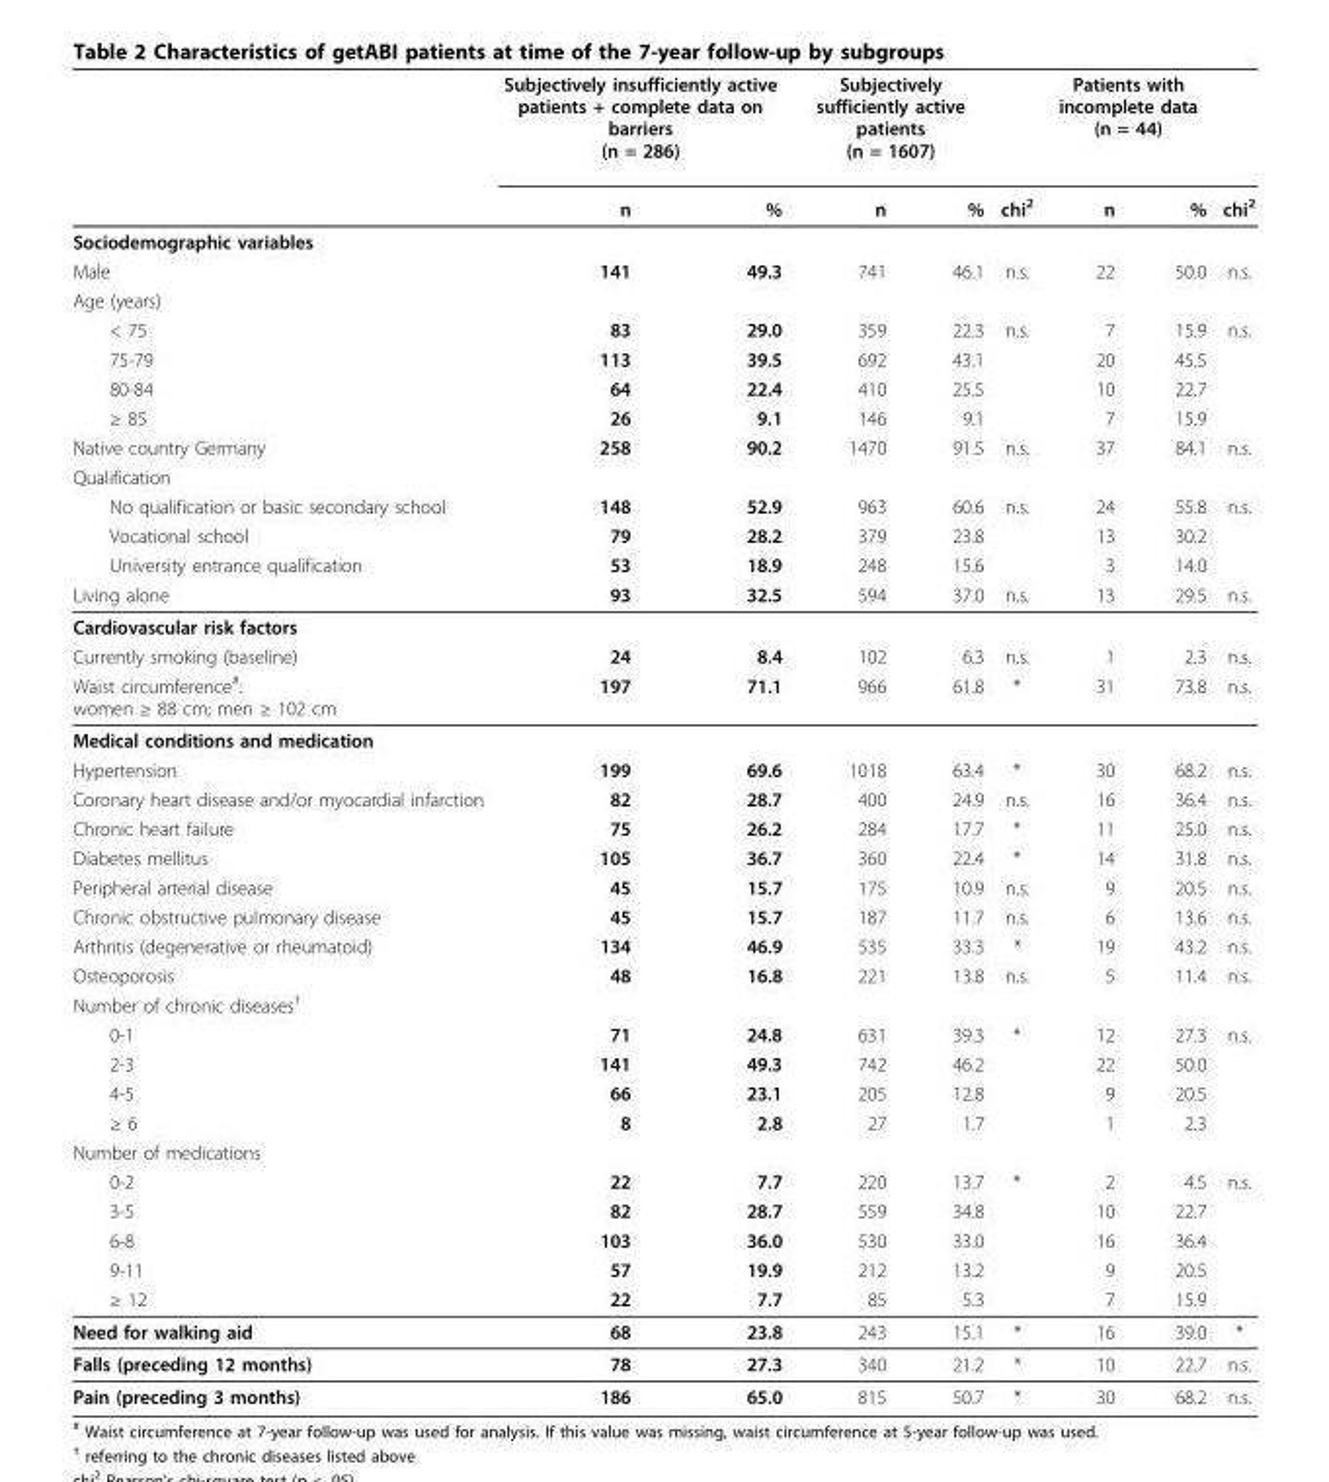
<table><thead><tr><td rowspan="2"></td><td colspan="2">Subjectively insufficiently active patients + complete data on barriers (n = 286)</td><td colspan="2">Subjectively sufficiently active patients (n = 1607)</td><td rowspan="2">chi<sup>2</sup></td><td colspan="2">Patients with incomplete data (n = 44)</td><td rowspan="2">chi<sup>2</sup></td></tr><tr><td>n</td><td>%</td><td>n</td><td>%</td><td>n</td><td>%</td></tr></thead><tbody><tr><td colspan="9">Sociodemographic variables</td></tr><tr><td>Male</td><td>141</td><td>49.3</td><td>741</td><td>46.1</td><td>n.s.</td><td>22</td><td>50.0</td><td>n.s.</td></tr><tr><td colspan="9">Age (years)</td></tr><tr><td>&lt; 75</td><td>83</td><td>29.0</td><td>359</td><td>22.3</td><td>n.s.</td><td>7</td><td>15.9</td><td>n.s.</td></tr><tr><td>75-79</td><td>113</td><td>39.5</td><td>692</td><td>43.1</td><td></td><td>20</td><td>45.5</td><td></td></tr><tr><td>80-84</td><td>64</td><td>22.4</td><td>410</td><td>25.5</td><td></td><td>10</td><td>22.7</td><td></td></tr><tr><td>≥ 85</td><td>26</td><td>9.1</td><td>146</td><td>9.1</td><td></td><td>7</td><td>15.9</td><td></td></tr><tr><td>Native country Germany</td><td>258</td><td>90.2</td><td>1470</td><td>91.5</td><td>n.s.</td><td>37</td><td>84.1</td><td>n.s.</td></tr><tr><td colspan="9">Qualification</td></tr><tr><td>No qualification or basic secondary school</td><td>148</td><td>52.9</td><td>963</td><td>60.6</td><td>n.s.</td><td>24</td><td>55.8</td><td>n.s.</td></tr><tr><td>Vocational school</td><td>79</td><td>28.2</td><td>379</td><td>23.8</td><td></td><td>13</td><td>30.2</td><td></td></tr><tr><td>University entrance qualification</td><td>53</td><td>18.9</td><td>248</td><td>15.6</td><td></td><td>3</td><td>14.0</td><td></td></tr><tr><td>Living alone</td><td>93</td><td>32.5</td><td>594</td><td>37.0</td><td>n.s.</td><td>13</td><td>29.5</td><td>n.s.</td></tr><tr><td colspan="9">Cardiovascular risk factors</td></tr><tr><td>Currently smoking (baseline)</td><td>24</td><td>8.4</td><td>102</td><td>6.3</td><td>n.s.</td><td>1</td><td>2.3</td><td>n.s.</td></tr><tr><td>Waist circumference<sup>#</sup>: women ≥ 88 cm; men ≥ 102 cm</td><td>197</td><td>71.1</td><td>966</td><td>61.8</td><td>*</td><td>31</td><td>73.8</td><td>n.s.</td></tr><tr><td colspan="9">Medical conditions and medication</td></tr><tr><td>Hypertension</td><td>199</td><td>69.6</td><td>1018</td><td>63.4</td><td>*</td><td>30</td><td>68.2</td><td>n.s.</td></tr><tr><td>Coronary heart disease and/or myocardial infarction</td><td>82</td><td>28.7</td><td>400</td><td>24.9</td><td>n.s.</td><td>16</td><td>36.4</td><td>n.s.</td></tr><tr><td>Chronic heart failure</td><td>75</td><td>26.2</td><td>284</td><td>17.7</td><td>*</td><td>11</td><td>25.0</td><td>n.s.</td></tr><tr><td>Diabetes mellitus</td><td>105</td><td>36.7</td><td>360</td><td>22.4</td><td>*</td><td>14</td><td>31.8</td><td>n.s.</td></tr><tr><td>Peripheral arterial disease</td><td>45</td><td>15.7</td><td>175</td><td>10.9</td><td>n.s.</td><td>9</td><td>20.5</td><td>n.s.</td></tr><tr><td>Chronic obstructive pulmonary disease</td><td>45</td><td>15.7</td><td>187</td><td>11.7</td><td>n.s.</td><td>6</td><td>13.6</td><td>n.s.</td></tr><tr><td>Arthritis (degenerative or rheumatoid)</td><td>134</td><td>46.9</td><td>535</td><td>33.3</td><td>*</td><td>19</td><td>43.2</td><td>n.s.</td></tr><tr><td>Osteoporosis</td><td>48</td><td>16.8</td><td>221</td><td>13.8</td><td>n.s.</td><td>5</td><td>11.4</td><td>n.s.</td></tr><tr><td colspan="9">Number of chronic diseases<sup>†</sup></td></tr><tr><td>0-1</td><td>71</td><td>24.8</td><td>631</td><td>39.3</td><td>*</td><td>12</td><td>27.3</td><td>n.s.</td></tr><tr><td>2-3</td><td>141</td><td>49.3</td><td>742</td><td>46.2</td><td></td><td>22</td><td>50.0</td><td></td></tr><tr><td>4-5</td><td>66</td><td>23.1</td><td>205</td><td>12.8</td><td></td><td>9</td><td>20.5</td><td></td></tr><tr><td>≥ 6</td><td>8</td><td>2.8</td><td>27</td><td>1.7</td><td></td><td>1</td><td>2.3</td><td></td></tr><tr><td colspan="9">Number of medications</td></tr><tr><td>0-2</td><td>22</td><td>7.7</td><td>220</td><td>13.7</td><td>*</td><td>2</td><td>4.5</td><td>n.s.</td></tr><tr><td>3-5</td><td>82</td><td>28.7</td><td>559</td><td>34.8</td><td></td><td>10</td><td>22.7</td><td></td></tr><tr><td>6-8</td><td>103</td><td>36.0</td><td>530</td><td>33.0</td><td></td><td>16</td><td>36.4</td><td></td></tr><tr><td>9-11</td><td>57</td><td>19.9</td><td>212</td><td>13.2</td><td></td><td>9</td><td>20.5</td><td></td></tr><tr><td>≥ 12</td><td>22</td><td>7.7</td><td>85</td><td>5.3</td><td></td><td>7</td><td>15.9</td><td></td></tr><tr><td>Need for walking aid</td><td>68</td><td>23.8</td><td>243</td><td>15.1</td><td>*</td><td>16</td><td>39.0</td><td>*</td></tr><tr><td>Falls (preceding 12 months)</td><td>78</td><td>27.3</td><td>340</td><td>21.2</td><td>*</td><td>10</td><td>22.7</td><td>n.s.</td></tr><tr><td>Pain (preceding 3 months)</td><td>186</td><td>65.0</td><td>815</td><td>50.7</td><td>*</td><td>30</td><td>68.2</td><td>n.s.</td></tr></tbody></table>